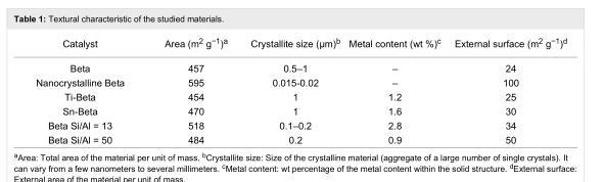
<table><tbody><tr><td>Catalyst</td><td>Area (m<sup>2</sup> g<sup>−1</sup>)<sup>a</sup></td><td>Crystallite size (μm)<sup>b</sup></td><td>Metal content (wt %)<sup>c</sup></td><td>External surface (m<sup>2</sup> g<sup>−1</sup>)<sup>d</sup></td></tr><tr><td>Beta</td><td>457</td><td>0.5–1</td><td>–</td><td>24</td></tr><tr><td>Nanocrystalline Beta</td><td>595</td><td>0.015-0.02</td><td>–</td><td>100</td></tr><tr><td>Ti-Beta</td><td>454</td><td>1</td><td>1.2</td><td>25</td></tr><tr><td>Sn-Beta</td><td>470</td><td>1</td><td>1.6</td><td>30</td></tr><tr><td>Beta Si/Al = 13</td><td>518</td><td>0.1–0.2</td><td>2.8</td><td>34</td></tr><tr><td>Beta Si/Al = 50</td><td>484</td><td>0.2</td><td>0.9</td><td>50</td></tr></tbody></table>